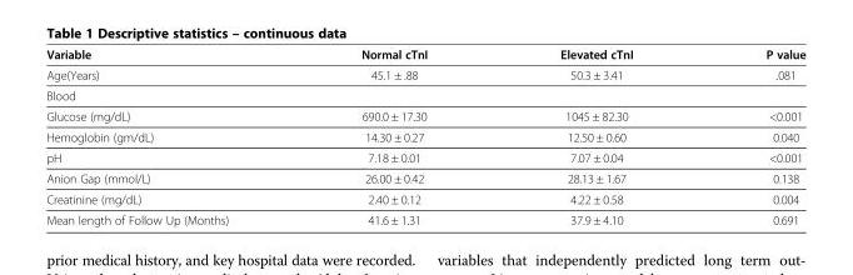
<table><thead><tr><td>Variable</td><td>Normal cTnI</td><td>Elevated cTnI</td><td>P value</td></tr></thead><tbody><tr><td>Age(Years)</td><td>45.1 ± .88</td><td>50.3 ± 3.41</td><td>.081</td></tr><tr><td colspan="4">Blood</td></tr><tr><td>Glucose (mg/dL)</td><td>690.0 ± 17.30</td><td>1045 ± 82.30</td><td>&lt;0.001</td></tr><tr><td>Hemoglobin (gm/dL)</td><td>14.30 ± 0.27</td><td>12.50 ± 0.60</td><td>0.040</td></tr><tr><td>pH</td><td>7.18 ± 0.01</td><td>7.07 ± 0.04</td><td>&lt;0.001</td></tr><tr><td>Anion Gap (mmol/L)</td><td>26.00 ± 0.42</td><td>28.13 ± 1.67</td><td>0.138</td></tr><tr><td>Creatinine (mg/dL)</td><td>2.40 ± 0.12</td><td>4.22 ± 0.58</td><td>0.004</td></tr><tr><td>Mean length of Follow Up (Months)</td><td>41.6 ± 1.31</td><td>37.9 ± 4.10</td><td>0.691</td></tr></tbody></table>